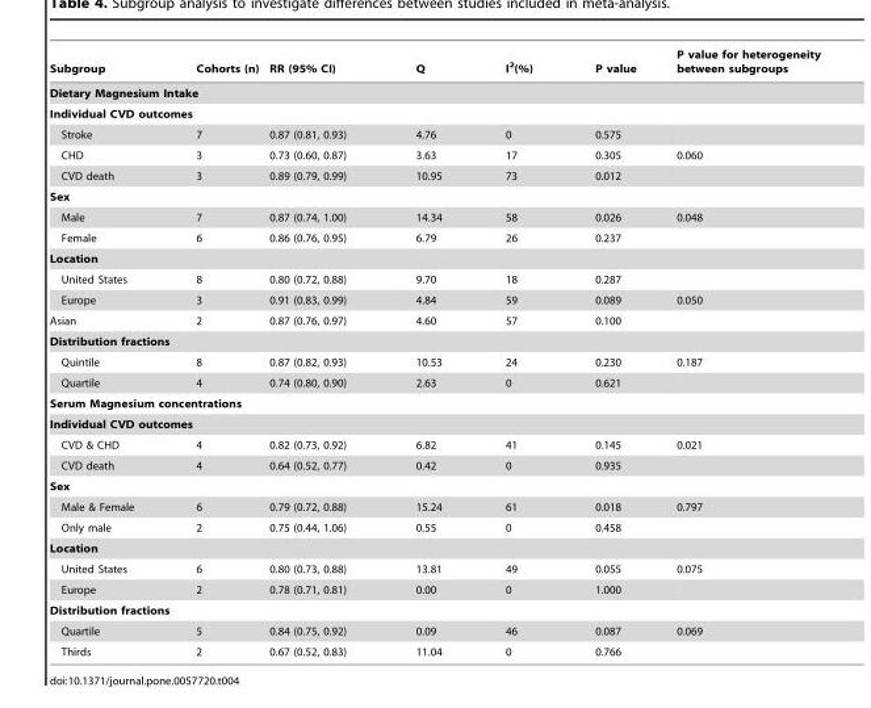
<table><thead><tr><td>Subgroup</td><td>Cohorts (n)</td><td>RR (95% CI)</td><td>Q</td><td>I<sup>2</sup>(%)</td><td>P value</td><td>P value for heterogeneity between subgroups</td></tr></thead><tbody><tr><td colspan="7">Dietary Magnesium Intake</td></tr><tr><td colspan="7">Individual CVD outcomes</td></tr><tr><td>Stroke</td><td>7</td><td>0.87 (0.81, 0.93)</td><td>4.76</td><td>0</td><td>0.575</td><td></td></tr><tr><td>CHD</td><td>3</td><td>0.73 (0.60, 0.87)</td><td>3.63</td><td>17</td><td>0.305</td><td>0.060</td></tr><tr><td>CVD death</td><td>3</td><td>0.89 (0.79, 0.99)</td><td>10.95</td><td>73</td><td>0.012</td><td></td></tr><tr><td colspan="7">Sex</td></tr><tr><td>Male</td><td>7</td><td>0.87 (0.74, 1.00)</td><td>14.34</td><td>58</td><td>0.026</td><td>0.048</td></tr><tr><td>Female</td><td>6</td><td>0.86 (0.76, 0.95)</td><td>6.79</td><td>26</td><td>0.237</td><td></td></tr><tr><td colspan="7">Location</td></tr><tr><td>United States</td><td>8</td><td>0.80 (0.72, 0.88)</td><td>9.70</td><td>18</td><td>0.287</td><td></td></tr><tr><td>Europe</td><td>3</td><td>0.91 (0.83, 0.99)</td><td>4.84</td><td>59</td><td>0.089</td><td>0.050</td></tr><tr><td>Asian</td><td>2</td><td>0.87 (0.76, 0.97)</td><td>4.60</td><td>57</td><td>0.100</td><td></td></tr><tr><td colspan="7">Distribution fractions</td></tr><tr><td>Quintile</td><td>8</td><td>0.87 (0.82, 0.93)</td><td>10.53</td><td>24</td><td>0.230</td><td>0.187</td></tr><tr><td>Quartile</td><td>4</td><td>0.74 (0.80, 0.90)</td><td>2.63</td><td>0</td><td>0.621</td><td></td></tr><tr><td colspan="7">Serum Magnesium concentrations</td></tr><tr><td colspan="7">Individual CVD outcomes</td></tr><tr><td>CVD &amp; CHD</td><td>4</td><td>0.82 (0.73, 0.92)</td><td>6.82</td><td>41</td><td>0.145</td><td>0.021</td></tr><tr><td>CVD death</td><td>4</td><td>0.64 (0.52, 0.77)</td><td>0.42</td><td>0</td><td>0.935</td><td></td></tr><tr><td colspan="7">Sex</td></tr><tr><td>Male &amp; Female</td><td>6</td><td>0.79 (0.72, 0.88)</td><td>15.24</td><td>61</td><td>0.018</td><td>0.797</td></tr><tr><td>Only male</td><td>2</td><td>0.75 (0.44, 1.06)</td><td>0.55</td><td>0</td><td>0.458</td><td></td></tr><tr><td colspan="7">Location</td></tr><tr><td>United States</td><td>6</td><td>0.80 (0.73, 0.88)</td><td>13.81</td><td>49</td><td>0.055</td><td>0.075</td></tr><tr><td>Europe</td><td>2</td><td>0.78 (0.71, 0.81)</td><td>0.00</td><td>0</td><td>1.000</td><td></td></tr><tr><td colspan="7">Distribution fractions</td></tr><tr><td>Quartile</td><td>5</td><td>0.84 (0.75, 0.92)</td><td>0.09</td><td>46</td><td>0.087</td><td>0.069</td></tr><tr><td>Thirds</td><td>2</td><td>0.67 (0.52, 0.83)</td><td>11.04</td><td>0</td><td>0.766</td><td></td></tr></tbody></table>